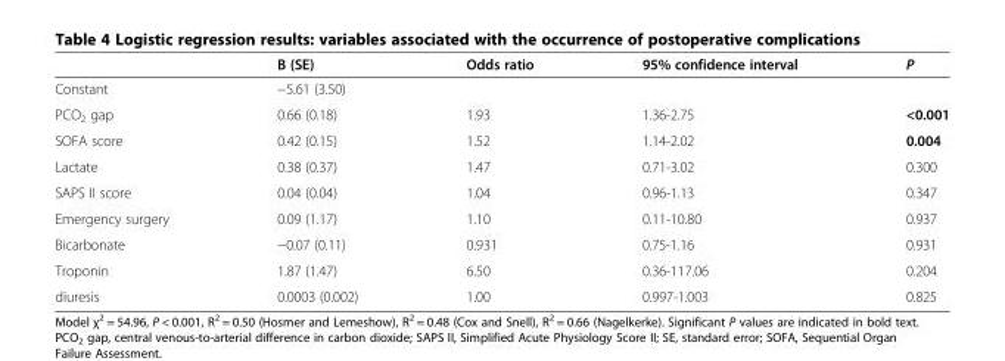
<table><thead><tr><td></td><td>B (SE)</td><td>Odds ratio</td><td>95% confidence interval</td><td>P</td></tr></thead><tbody><tr><td>Constant</td><td>−5.61 (3.50)</td><td></td><td></td><td></td></tr><tr><td>PCO<sub>2</sub> gap</td><td>0.66 (0.18)</td><td>1.93</td><td>1.36-2.75</td><td>&lt;0.001</td></tr><tr><td>SOFA score</td><td>0.42 (0.15)</td><td>1.52</td><td>1.14-2.02</td><td>0.004</td></tr><tr><td>Lactate</td><td>0.38 (0.37)</td><td>1.47</td><td>0.71-3.02</td><td>0.300</td></tr><tr><td>SAPS II score</td><td>0.04 (0.04)</td><td>1.04</td><td>0.96-1.13</td><td>0.347</td></tr><tr><td>Emergency surgery</td><td>0.09 (1.17)</td><td>1.10</td><td>0.11-10.80</td><td>0.937</td></tr><tr><td>Bicarbonate</td><td>−0.07 (0.11)</td><td>0.931</td><td>0.75-1.16</td><td>0.931</td></tr><tr><td>Troponin</td><td>1.87 (1.47)</td><td>6.50</td><td>0.36-117.06</td><td>0.204</td></tr><tr><td>diuresis</td><td>0.0003 (0.002)</td><td>1.00</td><td>0.997-1.003</td><td>0.825</td></tr></tbody></table>